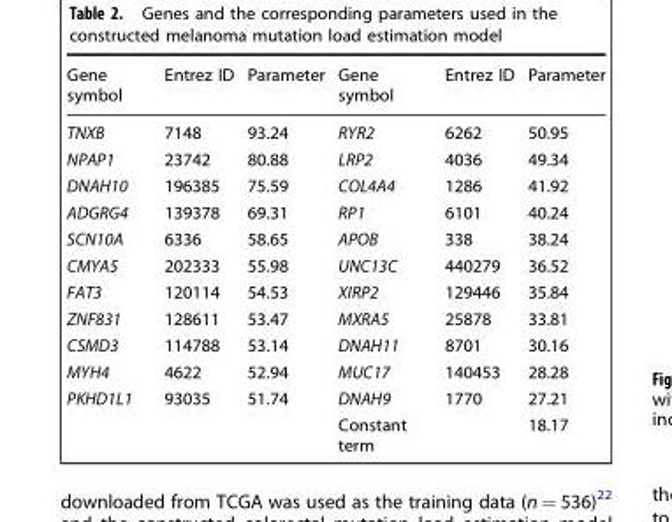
<table><thead><tr><td>Gene symbol</td><td>Entrez ID</td><td>Parameter</td><td>Gene symbol</td><td>Entrez ID</td><td>Parameter</td></tr></thead><tbody><tr><td>TNXB</td><td>7148</td><td>93.24</td><td>RYR2</td><td>6262</td><td>50.95</td></tr><tr><td>NPAP1</td><td>23742</td><td>80.88</td><td>LRP2</td><td>4036</td><td>49.34</td></tr><tr><td>DNAH10</td><td>196385</td><td>75.59</td><td>COL4A4</td><td>1286</td><td>41.92</td></tr><tr><td>ADGRG4</td><td>139378</td><td>69.31</td><td>RP1</td><td>6101</td><td>40.24</td></tr><tr><td>SCN10A</td><td>6336</td><td>58.65</td><td>APOB</td><td>338</td><td>38.24</td></tr><tr><td>CMYA5</td><td>202333</td><td>55.98</td><td>UNC13C</td><td>440279</td><td>36.52</td></tr><tr><td>FAT3</td><td>120114</td><td>54.53</td><td>XIRP2</td><td>129446</td><td>35.84</td></tr><tr><td>ZNF831</td><td>128611</td><td>53.47</td><td>MXRA5</td><td>25878</td><td>33.81</td></tr><tr><td>CSMD3</td><td>114788</td><td>53.14</td><td>DNAH11</td><td>8701</td><td>30.16</td></tr><tr><td>MYH4</td><td>4622</td><td>52.94</td><td>MUC17</td><td>140453</td><td>28.28</td></tr><tr><td rowspan="2">PKHD1L1</td><td>93035</td><td>51.74</td><td>DNAH9</td><td>1770</td><td>27.21</td></tr><tr><td></td><td></td><td>Constant term</td><td></td><td>18.17</td></tr></tbody></table>